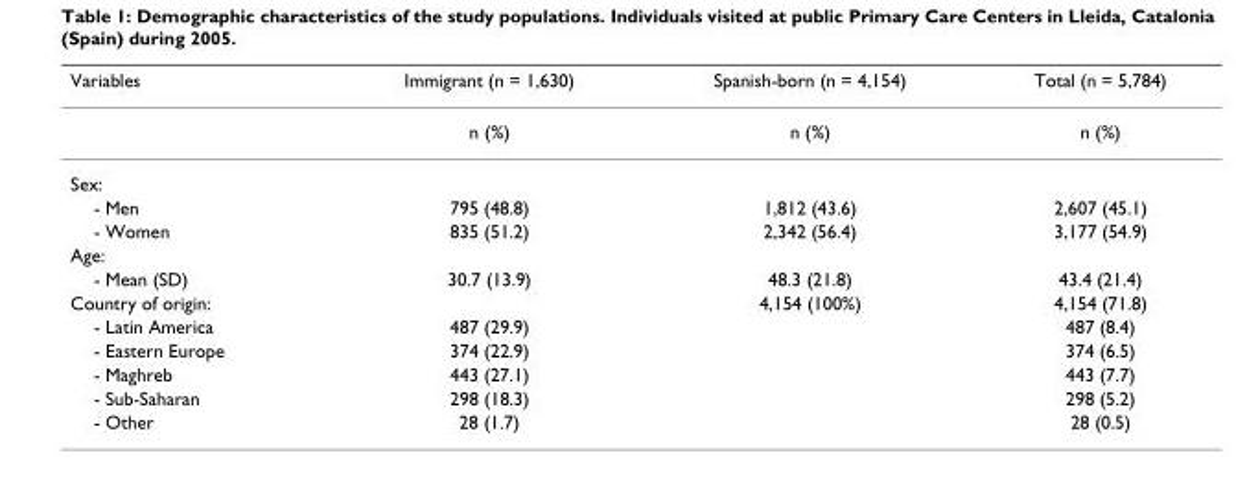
<table><thead><tr><td>Variables</td><td>Immigrant (n = 1,630)</td><td>Spanish-born (n = 4,154)</td><td>Total (n = 5,784)</td></tr></thead><tbody><tr><td></td><td>n (%)</td><td>n (%)</td><td>n (%)</td></tr><tr><td colspan="4">Sex:</td></tr><tr><td>- Men</td><td>795 (48.8)</td><td>1,812 (43.6)</td><td>2,607 (45.1)</td></tr><tr><td>- Women</td><td>835 (51.2)</td><td>2,342 (56.4)</td><td>3,177 (54.9)</td></tr><tr><td colspan="4">Age:</td></tr><tr><td>- Mean (SD)</td><td>30.7 (13.9)</td><td>48.3 (21.8)</td><td>43.4 (21.4)</td></tr><tr><td>Country of origin:</td><td></td><td>4,154 (100%)</td><td>4,154 (71.8)</td></tr><tr><td>- Latin America</td><td>487 (29.9)</td><td></td><td>487 (8.4)</td></tr><tr><td>- Eastern Europe</td><td>374 (22.9)</td><td></td><td>374 (6.5)</td></tr><tr><td>- Maghreb</td><td>443 (27.1)</td><td></td><td>443 (7.7)</td></tr><tr><td>- Sub-Saharan</td><td>298 (18.3)</td><td></td><td>298 (5.2)</td></tr><tr><td>- Other</td><td>28 (1.7)</td><td></td><td>28 (0.5)</td></tr></tbody></table>